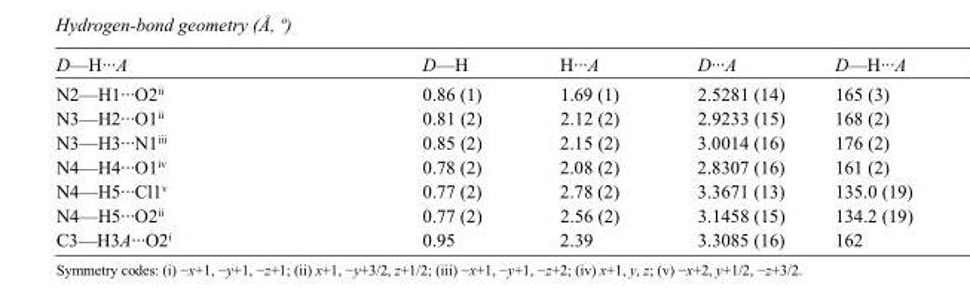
<table><tbody><tr><td>D—H···A</td><td>D—H</td><td>H···A</td><td>D···A</td><td>D—H···A</td></tr><tr><td>N2—H1···O2<sup>ii</sup></td><td>0.86 (1)</td><td>1.69 (1)</td><td>2.5281 (14)</td><td>165 (3)</td></tr><tr><td>N3—H2···O1<sup>ii</sup></td><td>0.81 (2)</td><td>2.12 (2)</td><td>2.9233 (15)</td><td>168 (2)</td></tr><tr><td>N3—H3···N1<sup>iii</sup></td><td>0.85 (2)</td><td>2.15 (2)</td><td>3.0014 (16)</td><td>176 (2)</td></tr><tr><td>N4—H4···O1<sup>iv</sup></td><td>0.78 (2)</td><td>2.08 (2)</td><td>2.8307 (16)</td><td>161 (2)</td></tr><tr><td>N4—H5···Cl1<sup>v</sup></td><td>0.77 (2)</td><td>2.78 (2)</td><td>3.3671 (13)</td><td>135.0 (19)</td></tr><tr><td>N4—H5···O2<sup>ii</sup></td><td>0.77 (2)</td><td>2.56 (2)</td><td>3.1458 (15)</td><td>134.2 (19)</td></tr><tr><td>C3—H3A···O2<sup>i</sup></td><td>0.95</td><td>2.39</td><td>3.3085 (16)</td><td>162</td></tr></tbody></table>